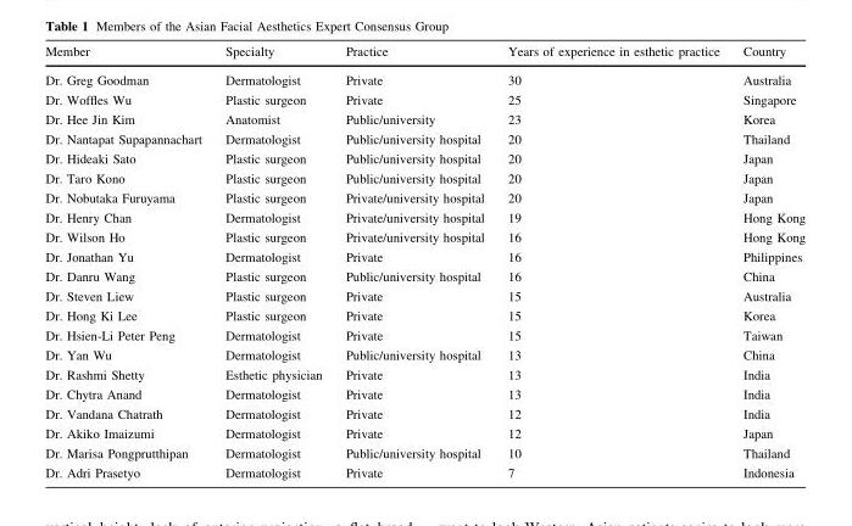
<table><thead><tr><td>Member</td><td>Specialty</td><td>Practice</td><td>Years of experience in esthetic practice</td><td>Country</td></tr></thead><tbody><tr><td>Dr. Greg Goodman</td><td>Dermatologist</td><td>Private</td><td>30</td><td>Australia</td></tr><tr><td>Dr. Woffles Wu</td><td>Plastic surgeon</td><td>Private</td><td>25</td><td>Singapore</td></tr><tr><td>Dr. Hee Jin Kim</td><td>Anatomist</td><td>Public/university</td><td>23</td><td>Korea</td></tr><tr><td>Dr. Nantapat Supapannachart</td><td>Dermatologist</td><td>Public/university hospital</td><td>20</td><td>Thailand</td></tr><tr><td>Dr. Hideaki Sato</td><td>Plastic surgeon</td><td>Public/university hospital</td><td>20</td><td>Japan</td></tr><tr><td>Dr. Taro Kono</td><td>Plastic surgeon</td><td>Public/university hospital</td><td>20</td><td>Japan</td></tr><tr><td>Dr. Nobutaka Furuyama</td><td>Plastic surgeon</td><td>Private/university hospital</td><td>20</td><td>Japan</td></tr><tr><td>Dr. Henry Chan</td><td>Dermatologist</td><td>Private/university hospital</td><td>19</td><td>Hong Kong</td></tr><tr><td>Dr. Wilson Ho</td><td>Plastic surgeon</td><td>Private/university hospital</td><td>16</td><td>Hong Kong</td></tr><tr><td>Dr. Jonathan Yu</td><td>Dermatologist</td><td>Private</td><td>16</td><td>Philippines</td></tr><tr><td>Dr. Danru Wang</td><td>Plastic surgeon</td><td>Public/university hospital</td><td>16</td><td>China</td></tr><tr><td>Dr. Steven Liew</td><td>Plastic surgeon</td><td>Private</td><td>15</td><td>Australia</td></tr><tr><td>Dr. Hong Ki Lee</td><td>Plastic surgeon</td><td>Private</td><td>15</td><td>Korea</td></tr><tr><td>Dr. Hsien-Li Peter Peng</td><td>Dermatologist</td><td>Private</td><td>15</td><td>Taiwan</td></tr><tr><td>Dr. Yan Wu</td><td>Dermatologist</td><td>Public/university hospital</td><td>13</td><td>China</td></tr><tr><td>Dr. Rashmi Shetty</td><td>Esthetic physician</td><td>Private</td><td>13</td><td>India</td></tr><tr><td>Dr. Chytra Anand</td><td>Dermatologist</td><td>Private</td><td>13</td><td>India</td></tr><tr><td>Dr. Vandana Chatrath</td><td>Dermatologist</td><td>Private</td><td>12</td><td>India</td></tr><tr><td>Dr. Akiko Imaizumi</td><td>Dermatologist</td><td>Private</td><td>12</td><td>Japan</td></tr><tr><td>Dr. Marisa Pongprutthipan</td><td>Dermatologist</td><td>Public/university hospital</td><td>10</td><td>Thailand</td></tr><tr><td>Dr. Adri Prasetyo</td><td>Dermatologist</td><td>Private</td><td>7</td><td>Indonesia</td></tr></tbody></table>